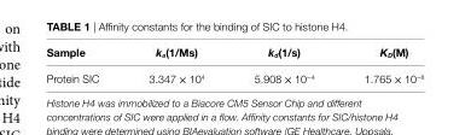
<table><thead><tr><td>sample</td><td>k<sub>a</sub>(1/Ms)</td><td>k<sub>d</sub>(1/s)</td><td>K<sub>D</sub>(M)</td></tr></thead><tbody><tr><td>Protein SIC</td><td>3.347 × 10<sup>4</sup></td><td>5.908 × 10<sup>−4</sup></td><td>1.765 × 10<sup>−8</sup></td></tr></tbody></table>